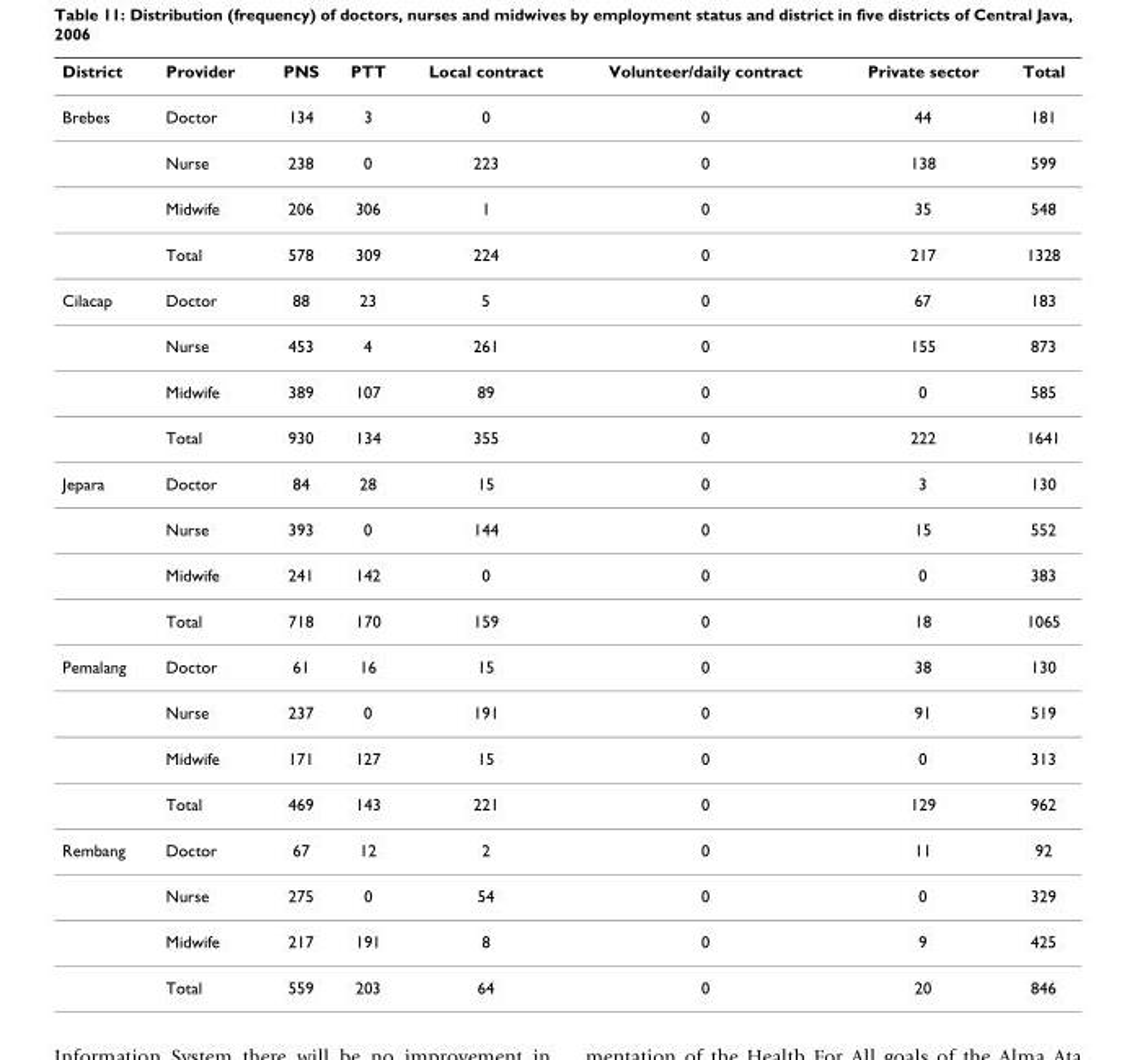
<table><thead><tr><td>District</td><td>Provider</td><td>PNS</td><td>PTT</td><td>Local contract</td><td>Volunteer/daily contract</td><td>Private sector</td><td>Total</td></tr></thead><tbody><tr><td rowspan="4">Brebes</td><td>Doctor</td><td>134</td><td>3</td><td>0</td><td>0</td><td>44</td><td>181</td></tr><tr><td>Nurse</td><td>238</td><td>0</td><td>223</td><td>0</td><td>138</td><td>599</td></tr><tr><td>Midwife</td><td>206</td><td>306</td><td>1</td><td>0</td><td>35</td><td>548</td></tr><tr><td>Total</td><td>578</td><td>309</td><td>224</td><td>0</td><td>217</td><td>1328</td></tr><tr><td rowspan="4">Cilacap</td><td>Doctor</td><td>88</td><td>23</td><td>5</td><td>0</td><td>67</td><td>183</td></tr><tr><td>Nurse</td><td>453</td><td>4</td><td>261</td><td>0</td><td>155</td><td>873</td></tr><tr><td>Midwife</td><td>389</td><td>107</td><td>89</td><td>0</td><td>0</td><td>585</td></tr><tr><td>Total</td><td>930</td><td>134</td><td>355</td><td>0</td><td>222</td><td>1641</td></tr><tr><td rowspan="4">Jepara</td><td>Doctor</td><td>84</td><td>28</td><td>15</td><td>0</td><td>3</td><td>130</td></tr><tr><td>Nurse</td><td>393</td><td>0</td><td>144</td><td>0</td><td>15</td><td>552</td></tr><tr><td>Midwife</td><td>241</td><td>142</td><td>0</td><td>0</td><td>0</td><td>383</td></tr><tr><td>Total</td><td>718</td><td>170</td><td>159</td><td>0</td><td>18</td><td>1065</td></tr><tr><td rowspan="4">Pemalang</td><td>Doctor</td><td>61</td><td>16</td><td>15</td><td>0</td><td>38</td><td>130</td></tr><tr><td>Nurse</td><td>237</td><td>0</td><td>191</td><td>0</td><td>91</td><td>519</td></tr><tr><td>Midwife</td><td>171</td><td>127</td><td>15</td><td>0</td><td>0</td><td>313</td></tr><tr><td>Total</td><td>469</td><td>143</td><td>221</td><td>0</td><td>129</td><td>962</td></tr><tr><td rowspan="4">Rembang</td><td>Doctor</td><td>67</td><td>12</td><td>2</td><td>0</td><td>11</td><td>92</td></tr><tr><td>Nurse</td><td>275</td><td>0</td><td>54</td><td>0</td><td>0</td><td>329</td></tr><tr><td>Midwife</td><td>217</td><td>191</td><td>8</td><td>0</td><td>9</td><td>425</td></tr><tr><td>Total</td><td>559</td><td>203</td><td>64</td><td>0</td><td>20</td><td>846</td></tr></tbody></table>